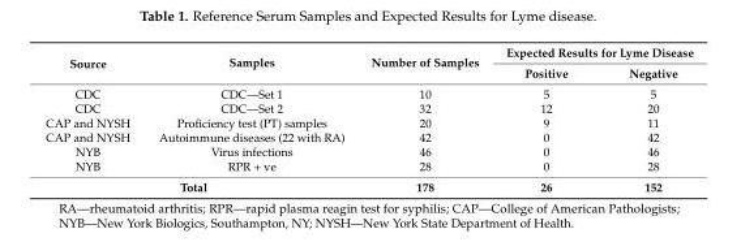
<table><thead><tr><td rowspan="2">Source</td><td rowspan="2">Samples</td><td rowspan="2">Number of Samples</td><td colspan="2">Expected Results for Lyme Disease</td></tr><tr><td>Positive</td><td>Negative</td></tr></thead><tbody><tr><td>CDC</td><td>CDC—Set 1</td><td>10</td><td>5</td><td>5</td></tr><tr><td>CDC</td><td>CDC—Set 2</td><td>32</td><td>12</td><td>20</td></tr><tr><td>CAP and NYSH</td><td>Proficiency test (PT) samples</td><td>20</td><td>9</td><td>11</td></tr><tr><td>CAP and NYSH</td><td>Autoimmune diseases (22 with RA)</td><td>42</td><td>0</td><td>42</td></tr><tr><td>NYB</td><td>Virus infections</td><td>46</td><td>0</td><td>46</td></tr><tr><td>NYB</td><td>RPR + ve</td><td>28</td><td>0</td><td>28</td></tr><tr><td colspan="2">Total</td><td>178</td><td>26</td><td>152</td></tr></tbody></table>